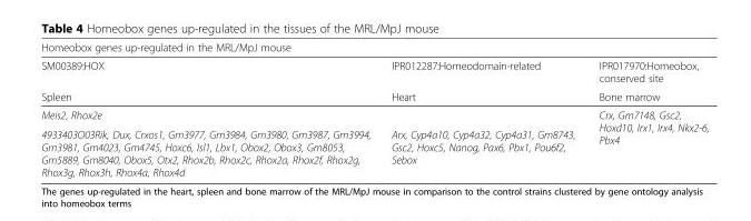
<table><thead><tr><td colspan="3">Homeobox genes up-regulated in the MRL/MpJ mouse</td></tr><tr><td rowspan="2">SM00389:HOX Spleen</td><td rowspan="2">IPR012287:Homeodomain-related Heart</td><td rowspan="2">IPR017970:Homeobox, conserved site Bone marrow</td></tr><tr></tr></thead><tbody><tr><td colspan="2">Meis2, Rhox2e</td><td rowspan="2">Crx, Gm7148, Gsc2, Hoxd10, Irx1, Irx4, Nkx2-6, Pbx4</td></tr><tr><td>4933403O03Rik, Dux, Crxos1, Gm3977, Gm3984, Gm3980, Gm3987, Gm3994, Gm3981, Gm4023, Gm4745, Hoxc6, Isl1, Lbx1, Obox2, Obox3, Gm8053, Gm5889, Gm8040, Obox5, Otx2, Rhox2b, Rhox2c, Rhox2a, Rhox2f, Rhox2g, Rhox3g, Rhox3h, Rhox4a, Rhox4d</td><td>Arx, Cyp4a10, Cyp4a32, Cyp4a31, Gm8743, Gsc2, Hoxc5, Nanog, Pax6, Pbx1, Pou6f2, Sebox</td></tr></tbody></table>